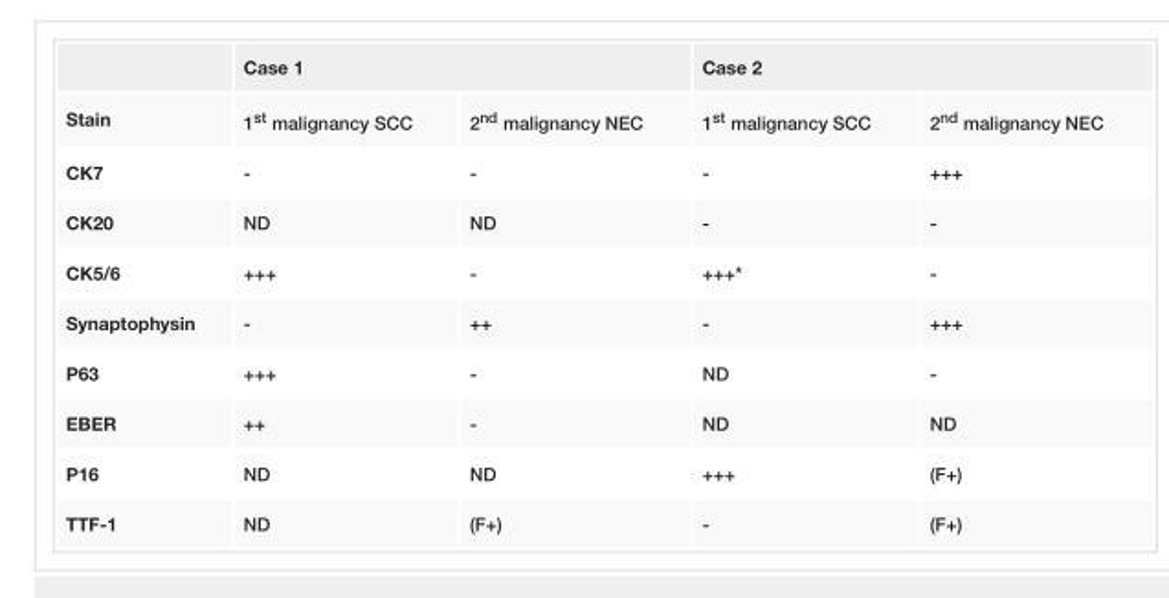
<table><thead><tr><td rowspan="2">Stain</td><td colspan="2">Case 1</td><td colspan="2">Case 2</td></tr><tr><td>1<sup>st</sup> malignancy SCC</td><td>2<sup>nd</sup> malignancy NEC</td><td>1<sup>st</sup> malignancy SCC</td><td>2<sup>nd</sup> malignancy NEC</td></tr></thead><tbody><tr><td>CK7</td><td>-</td><td>-</td><td>-</td><td>+++</td></tr><tr><td>CK20</td><td>ND</td><td>ND</td><td>-</td><td>-</td></tr><tr><td>CK5/6</td><td>+++</td><td>-</td><td>+++*</td><td>-</td></tr><tr><td>Synaptophysin</td><td>-</td><td>++</td><td>-</td><td>+++</td></tr><tr><td>P63</td><td>+++</td><td>-</td><td>ND</td><td>-</td></tr><tr><td>EBER</td><td>++</td><td>-</td><td>ND</td><td>ND</td></tr><tr><td>P16</td><td>ND</td><td>ND</td><td>+++</td><td>(F+)</td></tr><tr><td>TTF-1</td><td>ND</td><td>(F+)</td><td>-</td><td>(F+)</td></tr></tbody></table>